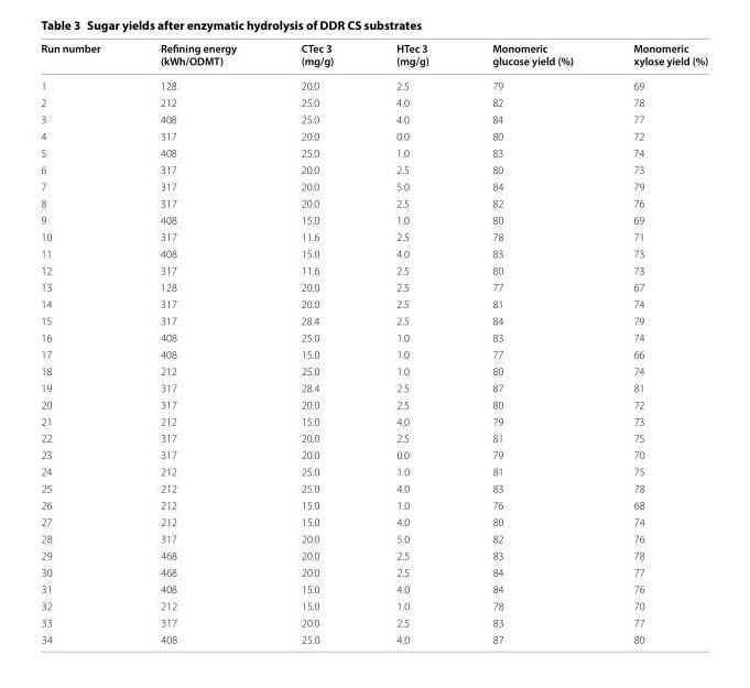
<table><thead><tr><td>Run number</td><td>Refining energy (kWh/ODMT)</td><td>CTec 3 (mg/g)</td><td>HTec 3 (mg/g)</td><td>Monomeric glucose yield (%)</td><td>Monomeric xylose yield (%)</td></tr></thead><tbody><tr><td>1</td><td>128</td><td>20.0</td><td>2.5</td><td>79</td><td>69</td></tr><tr><td>2</td><td>212</td><td>25.0</td><td>4.0</td><td>82</td><td>78</td></tr><tr><td>3</td><td>408</td><td>25.0</td><td>4.0</td><td>84</td><td>77</td></tr><tr><td>4</td><td>317</td><td>20.0</td><td>0.0</td><td>80</td><td>72</td></tr><tr><td>5</td><td>408</td><td>25.0</td><td>1.0</td><td>83</td><td>74</td></tr><tr><td>6</td><td>317</td><td>20.0</td><td>2.5</td><td>80</td><td>73</td></tr><tr><td>7</td><td>317</td><td>20.0</td><td>5.0</td><td>84</td><td>79</td></tr><tr><td>8</td><td>317</td><td>20.0</td><td>2.5</td><td>82</td><td>76</td></tr><tr><td>9</td><td>408</td><td>15.0</td><td>1.0</td><td>80</td><td>69</td></tr><tr><td>10</td><td>317</td><td>11.6</td><td>2.5</td><td>78</td><td>71</td></tr><tr><td>11</td><td>408</td><td>15.0</td><td>4.0</td><td>83</td><td>73</td></tr><tr><td>12</td><td>317</td><td>11.6</td><td>2.5</td><td>80</td><td>73</td></tr><tr><td>13</td><td>128</td><td>20.0</td><td>2.5</td><td>77</td><td>67</td></tr><tr><td>14</td><td>317</td><td>20.0</td><td>2.5</td><td>81</td><td>74</td></tr><tr><td>15</td><td>317</td><td>28.4</td><td>2.5</td><td>84</td><td>79</td></tr><tr><td>16</td><td>408</td><td>25.0</td><td>1.0</td><td>83</td><td>74</td></tr><tr><td>17</td><td>408</td><td>15.0</td><td>1.0</td><td>77</td><td>66</td></tr><tr><td>18</td><td>212</td><td>25.0</td><td>1.0</td><td>80</td><td>74</td></tr><tr><td>19</td><td>317</td><td>28.4</td><td>2.5</td><td>87</td><td>81</td></tr><tr><td>20</td><td>317</td><td>20.0</td><td>2.5</td><td>80</td><td>72</td></tr><tr><td>21</td><td>212</td><td>15.0</td><td>4.0</td><td>79</td><td>73</td></tr><tr><td>22</td><td>317</td><td>20.0</td><td>2.5</td><td>81</td><td>75</td></tr><tr><td>23</td><td>317</td><td>20.0</td><td>0.0</td><td>79</td><td>70</td></tr><tr><td>24</td><td>212</td><td>25.0</td><td>1.0</td><td>81</td><td>75</td></tr><tr><td>25</td><td>212</td><td>25.0</td><td>4.0</td><td>83</td><td>78</td></tr><tr><td>26</td><td>212</td><td>15.0</td><td>1.0</td><td>76</td><td>68</td></tr><tr><td>27</td><td>212</td><td>15.0</td><td>4.0</td><td>80</td><td>74</td></tr><tr><td>28</td><td>317</td><td>20.0</td><td>5.0</td><td>82</td><td>76</td></tr><tr><td>29</td><td>468</td><td>20.0</td><td>2.5</td><td>83</td><td>78</td></tr><tr><td>30</td><td>468</td><td>20.0</td><td>2.5</td><td>84</td><td>77</td></tr><tr><td>31</td><td>408</td><td>15.0</td><td>4.0</td><td>84</td><td>76</td></tr><tr><td>32</td><td>212</td><td>15.0</td><td>1.0</td><td>78</td><td>70</td></tr><tr><td>33</td><td>317</td><td>20.0</td><td>2.5</td><td>83</td><td>77</td></tr><tr><td>34</td><td>408</td><td>25.0</td><td>4.0</td><td>87</td><td>80</td></tr></tbody></table>